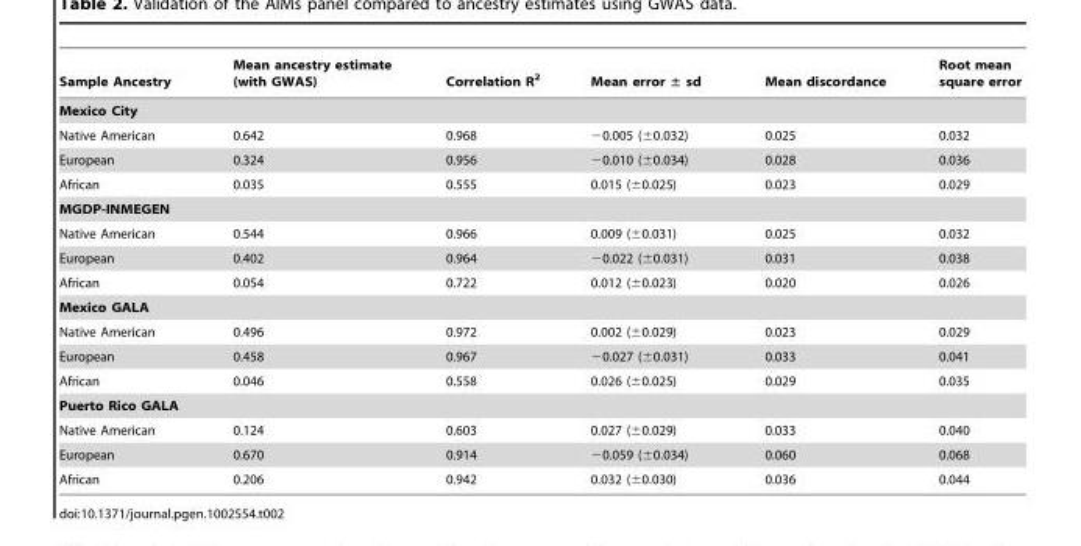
<table><thead><tr><td>Sample Ancestry</td><td>Mean ancestry estimate (with GWAS)</td><td>Correlation R<sup>2</sup></td><td>Mean error ± sd</td><td>Mean discordance</td><td>Root mean square error</td></tr></thead><tbody><tr><td colspan="6">Mexico City</td></tr><tr><td>Native American</td><td>0.642</td><td>0.968</td><td>−0.005 (±0.032)</td><td>0.025</td><td>0.032</td></tr><tr><td>European</td><td>0.324</td><td>0.956</td><td>−0.010 (±0.034)</td><td>0.028</td><td>0.036</td></tr><tr><td>African</td><td>0.035</td><td>0.555</td><td>0.015 (±0.025)</td><td>0.023</td><td>0.029</td></tr><tr><td colspan="6">MGDP-INMEGEN</td></tr><tr><td>Native American</td><td>0.544</td><td>0.966</td><td>0.009 (±0.031)</td><td>0.025</td><td>0.032</td></tr><tr><td>European</td><td>0.402</td><td>0.964</td><td>−0.022 (±0.031)</td><td>0.031</td><td>0.038</td></tr><tr><td>African</td><td>0.054</td><td>0.722</td><td>0.012 (±0.023)</td><td>0.020</td><td>0.026</td></tr><tr><td colspan="6">Mexico GALA</td></tr><tr><td>Native American</td><td>0.496</td><td>0.972</td><td>0.002 (±0.029)</td><td>0.023</td><td>0.029</td></tr><tr><td>European</td><td>0.458</td><td>0.967</td><td>−0.027 (±0.031)</td><td>0.033</td><td>0.041</td></tr><tr><td>African</td><td>0.046</td><td>0.558</td><td>0.026 (±0.025)</td><td>0.029</td><td>0.035</td></tr><tr><td colspan="6">Puerto Rico GALA</td></tr><tr><td>Native American</td><td>0.124</td><td>0.603</td><td>0.027 (±0.029)</td><td>0.033</td><td>0.040</td></tr><tr><td>European</td><td>0.670</td><td>0.914</td><td>−0.059 (±0.034)</td><td>0.060</td><td>0.068</td></tr><tr><td>African</td><td>0.206</td><td>0.942</td><td>0.032 (±0.030)</td><td>0.036</td><td>0.044</td></tr></tbody></table>